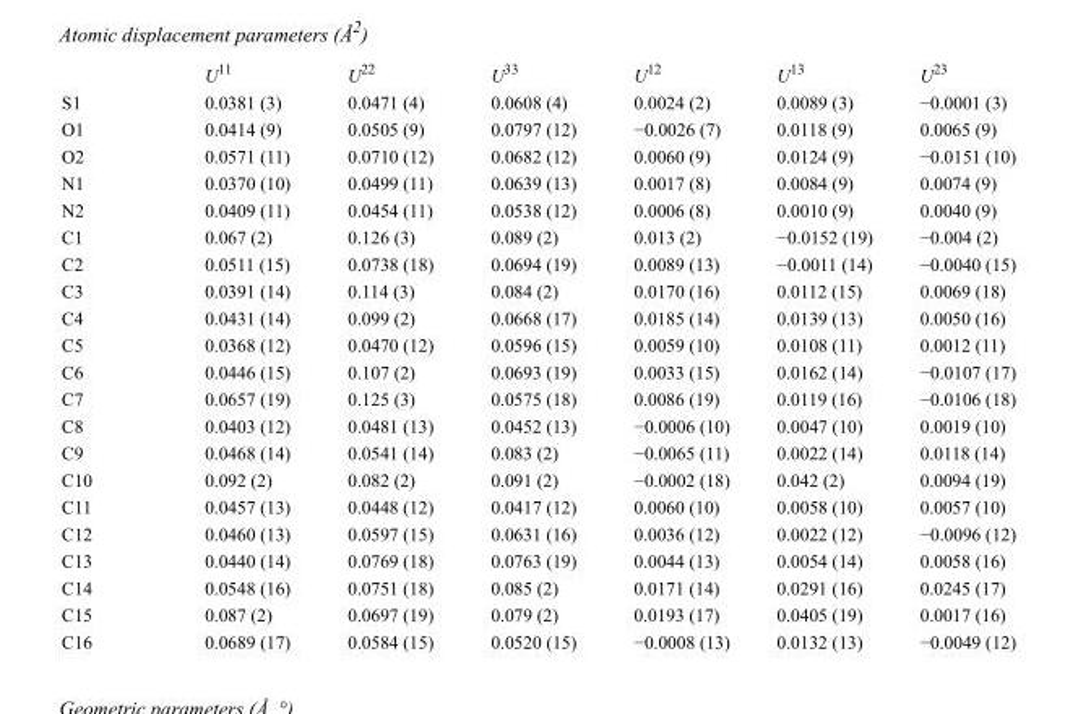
<table><thead><tr><td></td><td>U<sup>11</sup></td><td>U<sup>22</sup></td><td>U<sup>33</sup></td><td>U<sup>12</sup></td><td>U<sup>13</sup></td><td>U<sup>23</sup></td></tr></thead><tbody><tr><td>S1</td><td>0.0381 (3)</td><td>0.0471 (4)</td><td>0.0608 (4)</td><td>0.0024 (2)</td><td>0.0089 (3)</td><td>−0.0001 (3)</td></tr><tr><td>O1</td><td>0.0414 (9)</td><td>0.0505 (9)</td><td>0.0797 (12)</td><td>−0.0026 (7)</td><td>0.0118 (9)</td><td>0.0065 (9)</td></tr><tr><td>O2</td><td>0.0571 (11)</td><td>0.0710 (12)</td><td>0.0682 (12)</td><td>0.0060 (9)</td><td>0.0124 (9)</td><td>−0.0151 (10)</td></tr><tr><td>N1</td><td>0.0370 (10)</td><td>0.0499 (11)</td><td>0.0639 (13)</td><td>0.0017 (8)</td><td>0.0084 (9)</td><td>0.0074 (9)</td></tr><tr><td>N2</td><td>0.0409 (11)</td><td>0.0454 (11)</td><td>0.0538 (12)</td><td>0.0006 (8)</td><td>0.0010 (9)</td><td>0.0040 (9)</td></tr><tr><td>C1</td><td>0.067 (2)</td><td>0.126 (3)</td><td>0.089 (2)</td><td>0.013 (2)</td><td>−0.0152 (19)</td><td>−0.004 (2)</td></tr><tr><td>C2</td><td>0.0511 (15)</td><td>0.0738 (18)</td><td>0.0694 (19)</td><td>0.0089 (13)</td><td>−0.0011 (14)</td><td>−0.0040 (15)</td></tr><tr><td>C3</td><td>0.0391 (14)</td><td>0.114 (3)</td><td>0.084 (2)</td><td>0.0170 (16)</td><td>0.0112 (15)</td><td>0.0069 (18)</td></tr><tr><td>C4</td><td>0.0431 (14)</td><td>0.099 (2)</td><td>0.0668 (17)</td><td>0.0185 (14)</td><td>0.0139 (13)</td><td>0.0050 (16)</td></tr><tr><td>C5</td><td>0.0368 (12)</td><td>0.0470 (12)</td><td>0.0596 (15)</td><td>0.0059 (10)</td><td>0.0108 (11)</td><td>0.0012 (11)</td></tr><tr><td>C6</td><td>0.0446 (15)</td><td>0.107 (2)</td><td>0.0693 (19)</td><td>0.0033 (15)</td><td>0.0162 (14)</td><td>−0.0107 (17)</td></tr><tr><td>C7</td><td>0.0657 (19)</td><td>0.125 (3)</td><td>0.0575 (18)</td><td>0.0086 (19)</td><td>0.0119 (16)</td><td>−0.0106 (18)</td></tr><tr><td>C8</td><td>0.0403 (12)</td><td>0.0481 (13)</td><td>0.0452 (13)</td><td>−0.0006 (10)</td><td>0.0047 (10)</td><td>0.0019 (10)</td></tr><tr><td>C9</td><td>0.0468 (14)</td><td>0.0541 (14)</td><td>0.083 (2)</td><td>−0.0065 (11)</td><td>0.0022 (14)</td><td>0.0118 (14)</td></tr><tr><td>C10</td><td>0.092 (2)</td><td>0.082 (2)</td><td>0.091 (2)</td><td>−0.0002 (18)</td><td>0.042 (2)</td><td>0.0094 (19)</td></tr><tr><td>C11</td><td>0.0457 (13)</td><td>0.0448 (12)</td><td>0.0417 (12)</td><td>0.0060 (10)</td><td>0.0058 (10)</td><td>0.0057 (10)</td></tr><tr><td>C12</td><td>0.0460 (13)</td><td>0.0597 (15)</td><td>0.0631 (16)</td><td>0.0036 (12)</td><td>0.0022 (12)</td><td>−0.0096 (12)</td></tr><tr><td>C13</td><td>0.0440 (14)</td><td>0.0769 (18)</td><td>0.0763 (19)</td><td>0.0044 (13)</td><td>0.0054 (14)</td><td>0.0058 (16)</td></tr><tr><td>C14</td><td>0.0548 (16)</td><td>0.0751 (18)</td><td>0.085 (2)</td><td>0.0171 (14)</td><td>0.0291 (16)</td><td>0.0245 (17)</td></tr><tr><td>C15</td><td>0.087 (2)</td><td>0.0697 (19)</td><td>0.079 (2)</td><td>0.0193 (17)</td><td>0.0405 (19)</td><td>0.0017 (16)</td></tr><tr><td>C16</td><td>0.0689 (17)</td><td>0.0584 (15)</td><td>0.0520 (15)</td><td>−0.0008 (13)</td><td>0.0132 (13)</td><td>−0.0049 (12)</td></tr></tbody></table>